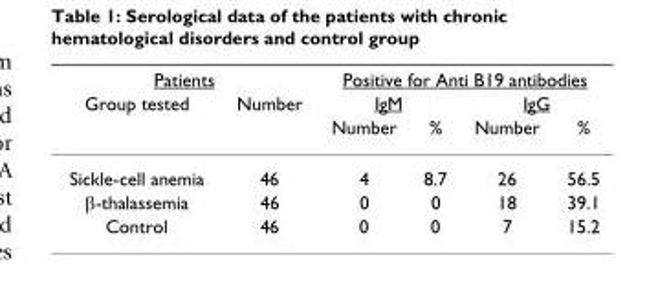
<table><thead><tr><td colspan="2">Patients</td><td colspan="4">Positive for Anti B19 antibodies</td></tr><tr><td rowspan="2">Group tested</td><td rowspan="2">Number</td><td colspan="2">IgM</td><td colspan="2">IgG</td></tr><tr><td>Number</td><td>%</td><td>Number</td><td>%</td></tr></thead><tbody><tr><td>Sickle-cell anemia</td><td>46</td><td>4</td><td>8.7</td><td>26</td><td>56.5</td></tr><tr><td>β-thalassemia</td><td>46</td><td>0</td><td>0</td><td>18</td><td>39.1</td></tr><tr><td>Control</td><td>46</td><td>0</td><td>0</td><td>7</td><td>15.2</td></tr></tbody></table>